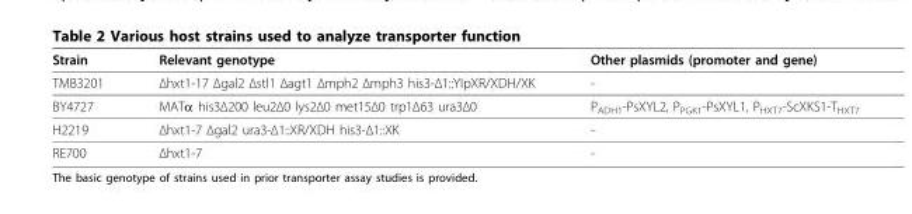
<table><thead><tr><td>Strain</td><td>Relevant genotype</td><td>Other plasmids (promoter and gene)</td></tr></thead><tbody><tr><td>TMB3201</td><td>Δhxt1-17 Δgal2 Δstl1 Δagt1 Δmph2 Δmph3 his3-Δ1::YIpXR/XDH/XK</td><td>-</td></tr><tr><td>BY4727</td><td>MATα his3Δ200 leu2Δ0 lys2Δ0 met15Δ0 trp1Δ63 ura3Δ0</td><td>P<sub>ADH1</sub>-PsXYL2, P<sub>PGK1</sub>-PsXYL1, P<sub>HXT7</sub>-ScXKS1-T<sub>HXT7</sub></td></tr><tr><td>H2219</td><td>Δhxt1-7 Δgal2 ura3-Δ1::XR/XDH his3-Δ1::XK</td><td>-</td></tr><tr><td>RE700</td><td>Δhxt1-7</td><td>-</td></tr></tbody></table>